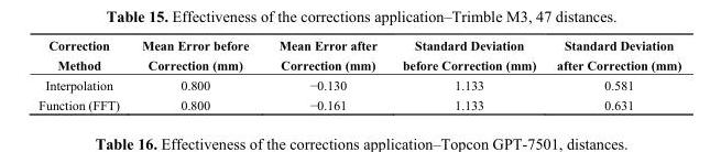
<table><thead><tr><td>Correction Method</td><td>Mean Error before Correction (mm)</td><td>Mean Error after Correction (mm)</td><td>Standard Deviation before Correction (mm)</td><td>Standard Deviation after Correction (mm)</td></tr></thead><tbody><tr><td>Interpolation</td><td>0.800</td><td>−0.130</td><td>1.133</td><td>0.581</td></tr><tr><td>Function (FFT)</td><td>0.800</td><td>−0.161</td><td>1.133</td><td>0.631</td></tr></tbody></table>